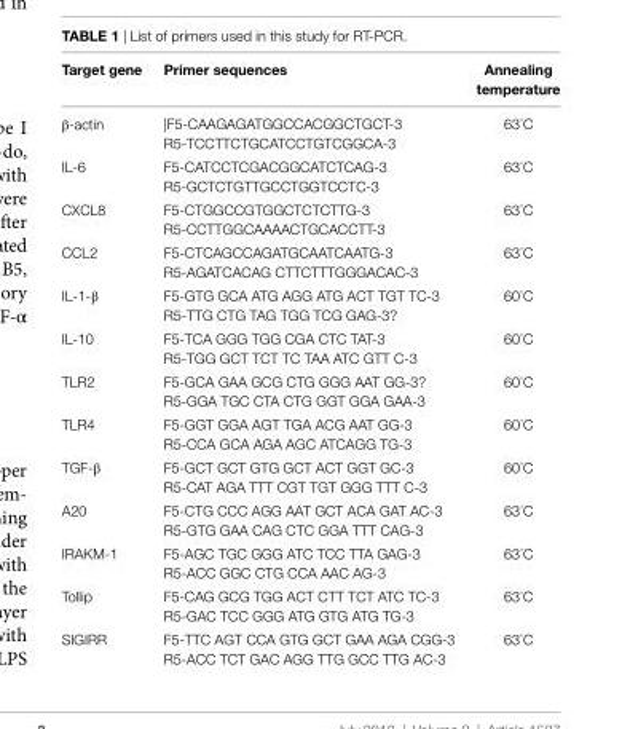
<table><thead><tr><td>Target gene</td><td>Primer sequences</td><td>annealing temperature</td></tr></thead><tbody><tr><td>β-actin</td><td>|F5-CAAGAGATGGCCACGGCTGCT-3 R5-TCCTTCTGCATCCTGTCGGCA-3</td><td>63°C</td></tr><tr><td>IL-6</td><td>F5-CATCCTCGACGGCATCTCAG-3 R5-GCTCTGTTGCCTGGTCCTC-3</td><td>63°C</td></tr><tr><td>CXCL8</td><td>F5-CTGGCCGTGGCTCTCTTG-3 R5-CCTTGGCAAAACTGCACCTT-3</td><td>63°C</td></tr><tr><td>CCL2</td><td>F5-CTCAGCCAGATGCAATCAATG-3 R5-AGATCACAG CTTCTTTGGGACAC-3</td><td>63°C</td></tr><tr><td>IL-1-β</td><td>F5-GTG GCA ATG AGG ATG ACT TGT TC-3 R5-TTG CTG TAG TGG TCG GAG-3?</td><td>60°C</td></tr><tr><td>IL-10</td><td>F5-TCA GGG TGG CGA CTC TAT-3 R5-TGG GCT TCT TC TAA ATC GTT C-3</td><td>60°C</td></tr><tr><td>TLR2</td><td>F5-GCA GAA GCG CTG GGG AAT GG-3? R5-GGA TGC CTA CTG GGT GGA GAA-3</td><td>60°C</td></tr><tr><td>TLR4</td><td>F5-GGT GGA AGT TGA ACG AAT GG-3 R5-CCA GCA AGA AGC ATCAGG TG-3</td><td>60°C</td></tr><tr><td>TGF-β</td><td>F5-GCT GCT GTG GCT ACT GGT GC-3 R5-CAT AGA TTT CGT TGT GGG TTT C-3</td><td>60°C</td></tr><tr><td>A20</td><td>F5-CTG CCC AGG AAT GCT ACA GAT AC-3 R5-GTG GAA CAG CTC GGA TTT CAG-3</td><td>63°C</td></tr><tr><td>IRAKM-1</td><td>F5-AGC TGC GGG ATC TCC TTA GAG-3 R5-ACC GGC CTG CCA AAC AG-3</td><td>63°C</td></tr><tr><td>Tollip</td><td>F5-CAG GCG TGG ACT CTT TCT ATC TC-3 R5-GAC TCC GGG ATG GTG ATG TG-3</td><td>63°C</td></tr><tr><td>SIGIRR</td><td>F5-TTC AGT CCA GTG GCT GAA AGA CGG-3 R5-ACC TCT GAC AGG TTG GCC TTG AC-3</td><td>63°C</td></tr></tbody></table>